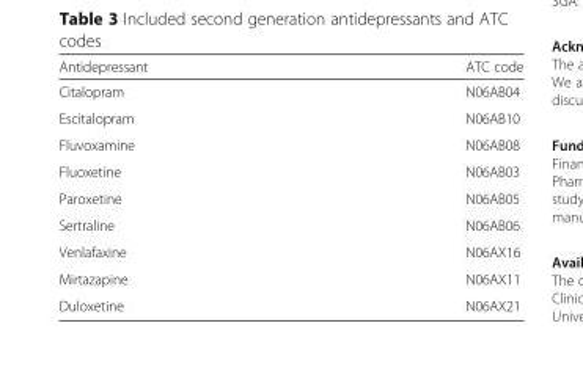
<table><thead><tr><td>Antidepressant</td><td>ATC code</td></tr></thead><tbody><tr><td>Citalopram</td><td>N06AB04</td></tr><tr><td>Escitalopram</td><td>N06AB10</td></tr><tr><td>Fluvoxamine</td><td>N06AB08</td></tr><tr><td>Fluoxetine</td><td>N06AB03</td></tr><tr><td>Paroxetine</td><td>N06AB05</td></tr><tr><td>Sertraline</td><td>N06AB06</td></tr><tr><td>Venlafaxine</td><td>N06AX16</td></tr><tr><td>Mirtazapine</td><td>N06AX11</td></tr><tr><td>Duloxetine</td><td>N06AX21</td></tr></tbody></table>